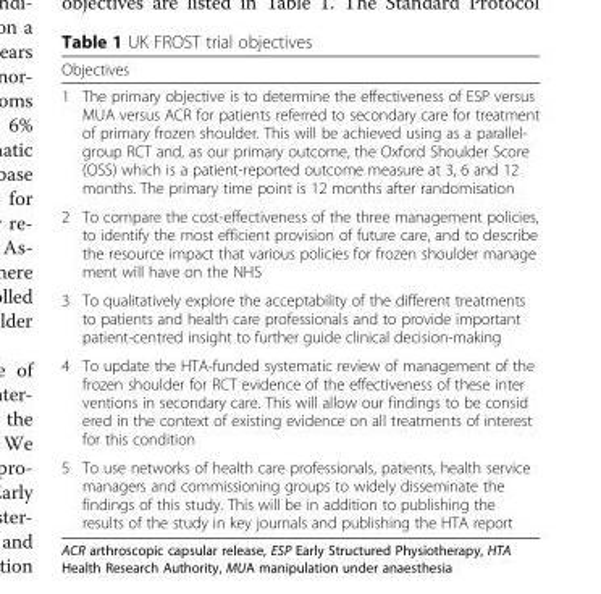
<table><thead><tr><td colspan="2">Objectives</td></tr><tr><td>1</td><td>The primary objective is to determine the effectiveness of ESP versus MUA versus ACR for patients referred to secondary care for treatment of primary frozen shoulder. This will be achieved using as a parallel- group RCT and, as our primary outcome, the Oxford Shoulder Score (OSS) which is a patient-reported outcome measure at 3, 6 and 12 months. The primary time point is 12 months after randomisation</td></tr></thead><tbody><tr><td>2</td><td>To compare the cost-effectiveness of the three management policies, to identify the most efficient provision of future care, and to describe the resource impact that various policies for frozen shoulder manage ment will have on the NHS</td></tr><tr><td>3</td><td>To qualitatively explore the acceptability of the different treatments to patients and health care professionals and to provide important patient-centred insight to further guide clinical decision-making</td></tr><tr><td>4</td><td>To update the HTA-funded systematic review of management of the frozen shoulder for RCT evidence of the effectiveness of these inter ventions in secondary care. This will allow our findings to be consid ered in the context of existing evidence on all treatments of interest for this condition</td></tr><tr><td>5</td><td>To use networks of health care professionals, patients, health service managers and commissioning groups to widely disseminate the findings of this study. This will be in addition to publishing the results of the study in key journals and publishing the HTA report</td></tr></tbody></table>